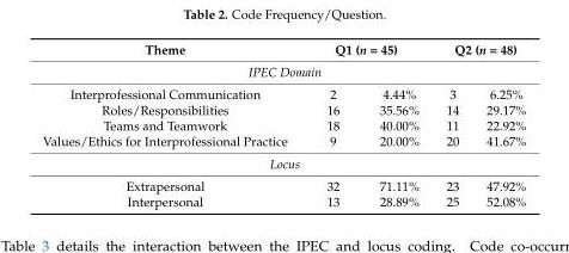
<table><thead><tr><td>Theme</td><td colspan="2">Q1 (n = 45)</td><td colspan="2">Q2 (n = 48)</td></tr><tr><td colspan="5">IPEC Domain</td></tr><tr><td>Interprofessional Communication</td><td>2</td><td>4.44%</td><td>3</td><td>6.25%</td></tr></thead><tbody><tr><td>Roles/Responsibilities</td><td>16</td><td>35.56%</td><td>14</td><td>29.17%</td></tr><tr><td>Teams and Teamwork</td><td>18</td><td>40.00%</td><td>11</td><td>22.92%</td></tr><tr><td>Values/Ethics for Interprofessional Practice</td><td>9</td><td>20.00%</td><td>20</td><td>41.67%</td></tr><tr><td colspan="5">Locus</td></tr><tr><td>Extrapersonal</td><td>32</td><td>71.11%</td><td>23</td><td>47.92%</td></tr><tr><td>Interpersonal</td><td>13</td><td>28.89%</td><td>25</td><td>52.08%</td></tr></tbody></table>